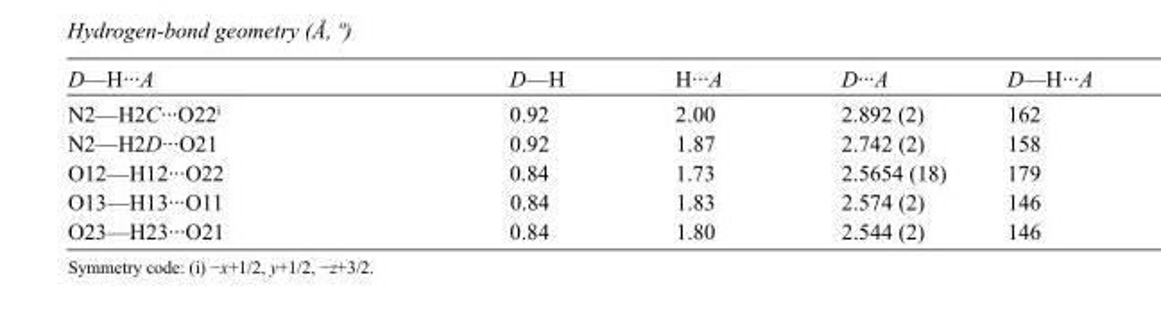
<table><tbody><tr><td>D—H···A</td><td>D—H</td><td>H···A</td><td>D···A</td><td>D—H···A</td></tr><tr><td>N2—H2C···O22<sup>i</sup></td><td>0.92</td><td>2.00</td><td>2.892 (2)</td><td>162</td></tr><tr><td>N2—H2D···O21</td><td>0.92</td><td>1.87</td><td>2.742 (2)</td><td>158</td></tr><tr><td>O12—H12···O22</td><td>0.84</td><td>1.73</td><td>2.5654 (18)</td><td>179</td></tr><tr><td>O13—H13···O11</td><td>0.84</td><td>1.83</td><td>2.574 (2)</td><td>146</td></tr><tr><td>O23—H23···O21</td><td>0.84</td><td>1.80</td><td>2.544 (2)</td><td>146</td></tr></tbody></table>